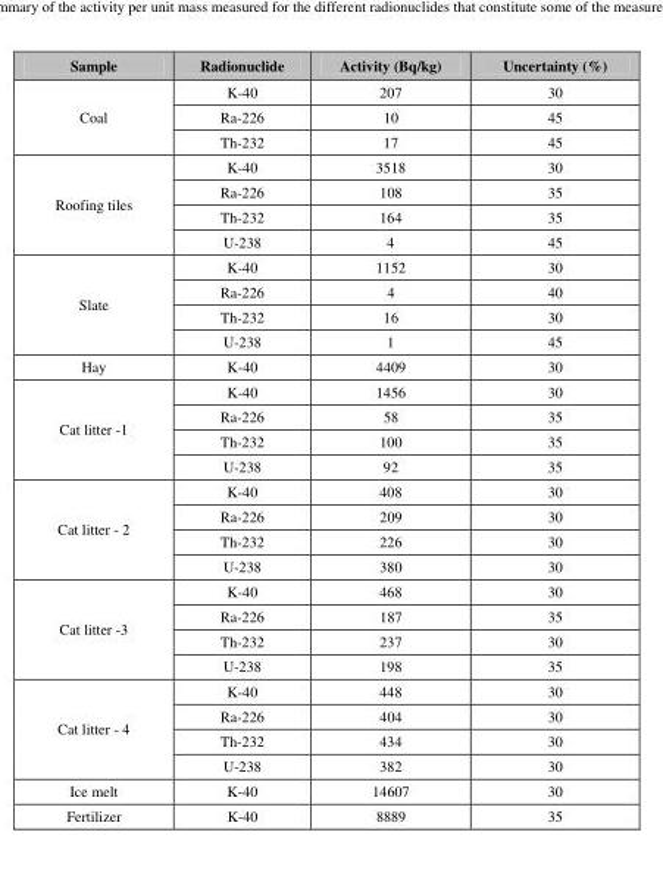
<table><thead><tr><td>Sample</td><td>Radionuclide</td><td>Activity (Bq/kg)</td><td>Uncertainty (%)</td></tr></thead><tbody><tr><td rowspan="3">Coal</td><td>K-40</td><td>207</td><td>30</td></tr><tr><td>Ra-226</td><td>10</td><td>45</td></tr><tr><td>Th-232</td><td>17</td><td>45</td></tr><tr><td rowspan="4">Roofing tiles</td><td>K-40</td><td>3518</td><td>30</td></tr><tr><td>Ra-226</td><td>108</td><td>35</td></tr><tr><td>Th-232</td><td>164</td><td>35</td></tr><tr><td>U-238</td><td>4</td><td>45</td></tr><tr><td rowspan="4">Slate</td><td>K-40</td><td>1152</td><td>30</td></tr><tr><td>Ra-226</td><td>4</td><td>40</td></tr><tr><td>Th-232</td><td>16</td><td>30</td></tr><tr><td>U-238</td><td>1</td><td>45</td></tr><tr><td>Hay</td><td>K-40</td><td>4409</td><td>30</td></tr><tr><td rowspan="4">Cat litter -1</td><td>K-40</td><td>1456</td><td>30</td></tr><tr><td>Ra-226</td><td>58</td><td>35</td></tr><tr><td>Th-232</td><td>100</td><td>35</td></tr><tr><td>U-238</td><td>92</td><td>35</td></tr><tr><td rowspan="4">Cat litter - 2</td><td>K-40</td><td>408</td><td>30</td></tr><tr><td>Ra-226</td><td>209</td><td>30</td></tr><tr><td>Th-232</td><td>226</td><td>30</td></tr><tr><td>U-238</td><td>380</td><td>30</td></tr><tr><td rowspan="4">Cat litter -3</td><td>K-40</td><td>468</td><td>30</td></tr><tr><td>Ra-226</td><td>187</td><td>35</td></tr><tr><td>Th-232</td><td>237</td><td>30</td></tr><tr><td>U-238</td><td>198</td><td>35</td></tr><tr><td rowspan="4">Cat litter - 4</td><td>K-40</td><td>448</td><td>30</td></tr><tr><td>Ra-226</td><td>404</td><td>30</td></tr><tr><td>Th-232</td><td>434</td><td>30</td></tr><tr><td>U-238</td><td>382</td><td>30</td></tr><tr><td>Ice melt</td><td>K-40</td><td>14607</td><td>30</td></tr><tr><td>Fertilizer</td><td>K-40</td><td>8889</td><td>35</td></tr></tbody></table>